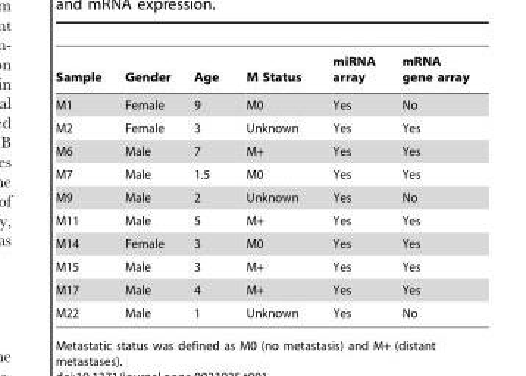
<table><thead><tr><td>Sample</td><td>Gender</td><td>Age</td><td>M Status</td><td>miRNA array</td><td>mRNA gene array</td></tr></thead><tbody><tr><td>M1</td><td>Female</td><td>9</td><td>M0</td><td>Yes</td><td>No</td></tr><tr><td>M2</td><td>Female</td><td>3</td><td>Unknown</td><td>Yes</td><td>Yes</td></tr><tr><td>M6</td><td>Male</td><td>7</td><td>M+</td><td>Yes</td><td>Yes</td></tr><tr><td>M7</td><td>Male</td><td>1.5</td><td>M0</td><td>Yes</td><td>Yes</td></tr><tr><td>M9</td><td>Male</td><td>2</td><td>Unknown</td><td>Yes</td><td>No</td></tr><tr><td>M11</td><td>Male</td><td>5</td><td>M+</td><td>Yes</td><td>Yes</td></tr><tr><td>M14</td><td>Female</td><td>3</td><td>M0</td><td>Yes</td><td>Yes</td></tr><tr><td>M15</td><td>Male</td><td>3</td><td>M+</td><td>Yes</td><td>Yes</td></tr><tr><td>M17</td><td>Male</td><td>4</td><td>M+</td><td>Yes</td><td>Yes</td></tr><tr><td>M22</td><td>Male</td><td>1</td><td>Unknown</td><td>Yes</td><td>No</td></tr></tbody></table>